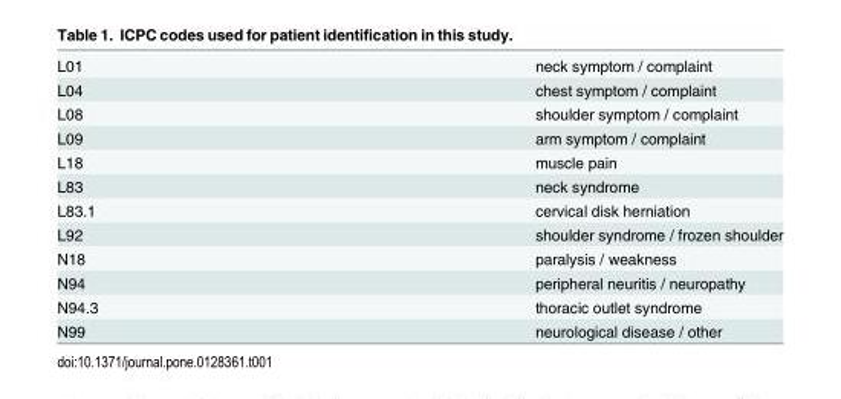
<table><tbody><tr><td>L01</td><td>neck symptom / complaint</td></tr><tr><td>L04</td><td>chest symptom / complaint</td></tr><tr><td>L08</td><td>shoulder symptom / complaint</td></tr><tr><td>L09</td><td>arm symptom / complaint</td></tr><tr><td>L18</td><td>muscle pain</td></tr><tr><td>L83</td><td>neck syndrome</td></tr><tr><td>L83.1</td><td>cervical disk herniation</td></tr><tr><td>L92</td><td>shoulder syndrome / frozen shoulder</td></tr><tr><td>N18</td><td>paralysis / weakness</td></tr><tr><td>N94</td><td>peripheral neuritis / neuropathy</td></tr><tr><td>N94.3</td><td>thoracic outlet syndrome</td></tr><tr><td>N99</td><td>neurological disease / other</td></tr></tbody></table>